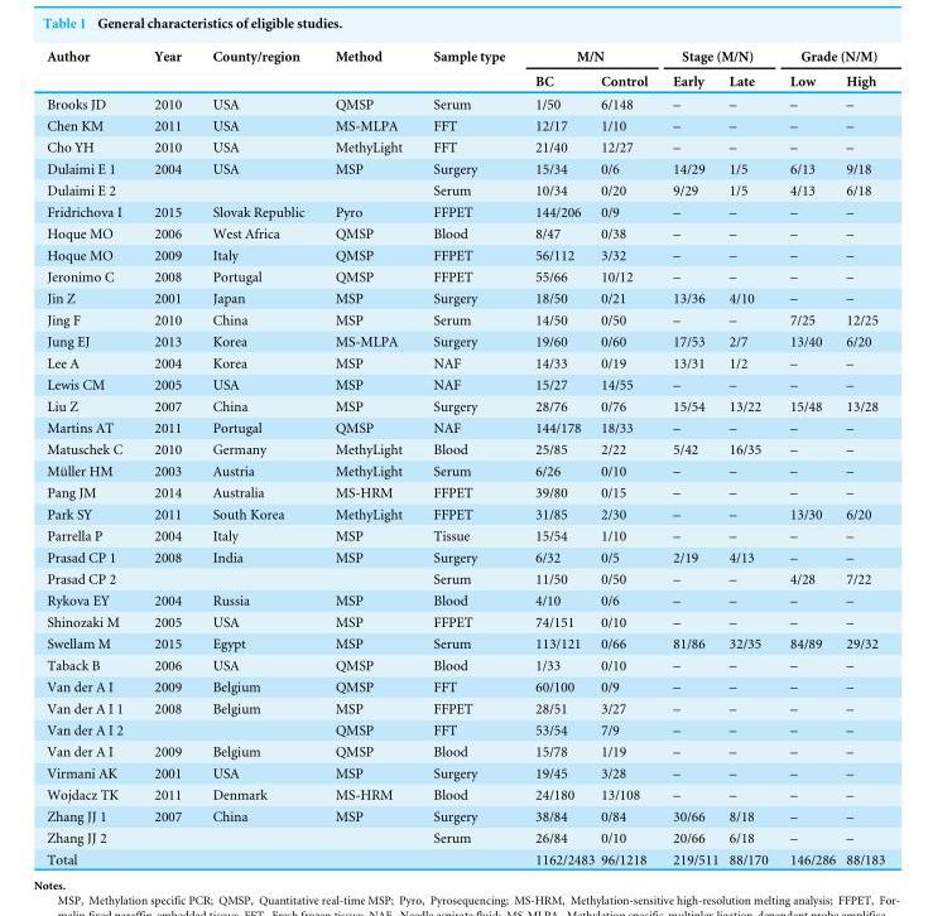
<table><thead><tr><td rowspan="2">Author</td><td rowspan="2">Year</td><td rowspan="2">County/region</td><td rowspan="2">Method</td><td rowspan="2">Sample type</td><td colspan="2">M/N</td><td colspan="2">Stage (M/N)</td><td colspan="2">Grade (N/M)</td></tr><tr><td>BC</td><td>Control</td><td>Early</td><td>Late</td><td>Low</td><td>High</td></tr></thead><tbody><tr><td>Brooks JD</td><td>2010</td><td>USA</td><td>QMSP</td><td>Serum</td><td>1/50</td><td>6/148</td><td>–</td><td>–</td><td>–</td><td>–</td></tr><tr><td>Chen KM</td><td>2011</td><td>USA</td><td>MS-MLPA</td><td>FFT</td><td>12/17</td><td>1/10</td><td>–</td><td>–</td><td>–</td><td>–</td></tr><tr><td>Cho YH</td><td>2010</td><td>USA</td><td>MethyLight</td><td>FFT</td><td>21/40</td><td>12/27</td><td>–</td><td>–</td><td>–</td><td>–</td></tr><tr><td>Dulaimi E 1</td><td>2004</td><td>USA</td><td>MSP</td><td>Surgery</td><td>15/34</td><td>0/6</td><td>14/29</td><td>1/5</td><td>6/13</td><td>9/18</td></tr><tr><td>Dulaimi E 2</td><td></td><td></td><td></td><td>Serum</td><td>10/34</td><td>0/20</td><td>9/29</td><td>1/5</td><td>4/13</td><td>6/18</td></tr><tr><td>Fridrichova I</td><td>2015</td><td>Slovak Republic</td><td>Pyro</td><td>FFPET</td><td>144/206</td><td>0/9</td><td>–</td><td>–</td><td>–</td><td>–</td></tr><tr><td>Hoque MO</td><td>2006</td><td>West Africa</td><td>QMSP</td><td>Blood</td><td>8/47</td><td>0/38</td><td>–</td><td>–</td><td>–</td><td>–</td></tr><tr><td>Hoque MO</td><td>2009</td><td>Italy</td><td>QMSP</td><td>FFPET</td><td>56/112</td><td>3/32</td><td>–</td><td>–</td><td>–</td><td>–</td></tr><tr><td>Jeronimo C</td><td>2008</td><td>Portugal</td><td>QMSP</td><td>FFPET</td><td>55/66</td><td>10/12</td><td>–</td><td>–</td><td>–</td><td>–</td></tr><tr><td>Jin Z</td><td>2001</td><td>Japan</td><td>MSP</td><td>Surgery</td><td>18/50</td><td>0/21</td><td>13/36</td><td>4/10</td><td>–</td><td>–</td></tr><tr><td>Jing F</td><td>2010</td><td>China</td><td>MSP</td><td>Serum</td><td>14/50</td><td>0/50</td><td>–</td><td>–</td><td>7/25</td><td>12/25</td></tr><tr><td>Jung EJ</td><td>2013</td><td>Korea</td><td>MS-MLPA</td><td>Surgery</td><td>19/60</td><td>0/60</td><td>17/53</td><td>2/7</td><td>13/40</td><td>6/20</td></tr><tr><td>Lee A</td><td>2004</td><td>Korea</td><td>MSP</td><td>NAF</td><td>14/33</td><td>0/19</td><td>13/31</td><td>1/2</td><td>–</td><td>–</td></tr><tr><td>Lewis CM</td><td>2005</td><td>USA</td><td>MSP</td><td>NAF</td><td>15/27</td><td>14/55</td><td>–</td><td>–</td><td>–</td><td>–</td></tr><tr><td>Liu Z</td><td>2007</td><td>China</td><td>MSP</td><td>Surgery</td><td>28/76</td><td>0/76</td><td>15/54</td><td>13/22</td><td>15/48</td><td>13/28</td></tr><tr><td>Martins AT</td><td>2011</td><td>Portugal</td><td>QMSP</td><td>NAF</td><td>144/178</td><td>18/33</td><td>–</td><td>–</td><td>–</td><td>–</td></tr><tr><td>Matuschek C</td><td>2010</td><td>Germany</td><td>MethyLight</td><td>Blood</td><td>25/85</td><td>2/22</td><td>5/42</td><td>16/35</td><td>–</td><td>–</td></tr><tr><td>Müller HM</td><td>2003</td><td>Austria</td><td>MethyLight</td><td>Serum</td><td>6/26</td><td>0/10</td><td>–</td><td>–</td><td>–</td><td>–</td></tr><tr><td>Pang JM</td><td>2014</td><td>Australia</td><td>MS-HRM</td><td>FFPET</td><td>39/80</td><td>0/15</td><td>–</td><td>–</td><td>–</td><td>–</td></tr><tr><td>Park SY</td><td>2011</td><td>South Korea</td><td>MethyLight</td><td>FFPET</td><td>31/85</td><td>2/30</td><td>–</td><td>–</td><td>13/30</td><td>6/20</td></tr><tr><td>Parrella P</td><td>2004</td><td>Italy</td><td>MSP</td><td>Tissue</td><td>15/54</td><td>1/10</td><td>–</td><td>–</td><td>–</td><td>–</td></tr><tr><td>Prasad CP 1</td><td>2008</td><td>India</td><td>MSP</td><td>Surgery</td><td>6/32</td><td>0/5</td><td>2/19</td><td>4/13</td><td>–</td><td>–</td></tr><tr><td>Prasad CP 2</td><td></td><td></td><td></td><td>Serum</td><td>11/50</td><td>0/50</td><td>–</td><td>–</td><td>4/28</td><td>7/22</td></tr><tr><td>Rykova EY</td><td>2004</td><td>Russia</td><td>MSP</td><td>Blood</td><td>4/10</td><td>0/6</td><td>–</td><td>–</td><td>–</td><td>–</td></tr><tr><td>Shinozaki M</td><td>2005</td><td>USA</td><td>MSP</td><td>FFPET</td><td>74/151</td><td>0/10</td><td>–</td><td>–</td><td>–</td><td>–</td></tr><tr><td>Swellam M</td><td>2015</td><td>Egypt</td><td>MSP</td><td>Serum</td><td>113/121</td><td>0/66</td><td>81/86</td><td>32/35</td><td>84/89</td><td>29/32</td></tr><tr><td>Taback B</td><td>2006</td><td>USA</td><td>QMSP</td><td>Blood</td><td>1/33</td><td>0/10</td><td>–</td><td>–</td><td>–</td><td>–</td></tr><tr><td>Van der A I</td><td>2009</td><td>Belgium</td><td>QMSP</td><td>FFT</td><td>60/100</td><td>0/9</td><td>–</td><td>–</td><td>–</td><td>–</td></tr><tr><td>Van der A I 1</td><td>2008</td><td>Belgium</td><td>MSP</td><td>FFPET</td><td>28/51</td><td>3/27</td><td>–</td><td>–</td><td>–</td><td>–</td></tr><tr><td>Van der A I 2</td><td></td><td></td><td>QMSP</td><td>FFT</td><td>53/54</td><td>7/9</td><td>–</td><td>–</td><td>–</td><td>–</td></tr><tr><td>Van der A I</td><td>2009</td><td>Belgium</td><td>QMSP</td><td>Blood</td><td>15/78</td><td>1/19</td><td>–</td><td>–</td><td>–</td><td>–</td></tr><tr><td>Virmani AK</td><td>2001</td><td>USA</td><td>MSP</td><td>Surgery</td><td>19/45</td><td>3/28</td><td>–</td><td>–</td><td>–</td><td>–</td></tr><tr><td>Wojdacz TK</td><td>2011</td><td>Denmark</td><td>MS-HRM</td><td>Blood</td><td>24/180</td><td>13/108</td><td>–</td><td>–</td><td>–</td><td>–</td></tr><tr><td>Zhang JJ 1</td><td>2007</td><td>China</td><td>MSP</td><td>Surgery</td><td>38/84</td><td>0/84</td><td>30/66</td><td>8/18</td><td>–</td><td>–</td></tr><tr><td>Zhang JJ 2</td><td></td><td></td><td></td><td>Serum</td><td>26/84</td><td>0/10</td><td>20/66</td><td>6/18</td><td>–</td><td>–</td></tr><tr><td>Total</td><td></td><td></td><td></td><td></td><td>1162/2483</td><td>96/1218</td><td>219/511</td><td>88/170</td><td>146/286</td><td>88/183</td></tr></tbody></table>